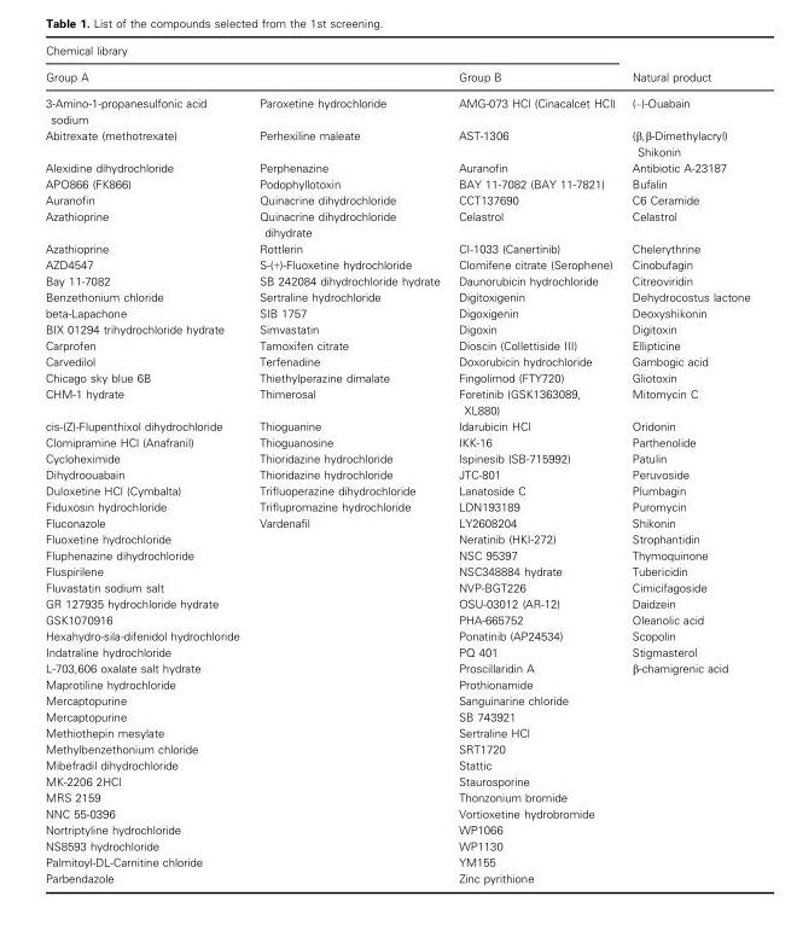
<table><thead><tr><td colspan="3">Chemical library</td><td rowspan="2">Natural product</td></tr><tr><td>Group A</td><td></td><td>Group B</td></tr></thead><tbody><tr><td>3-Amino-1-propanesulfonic acid sodium</td><td>Paroxetine hydrochloride</td><td>AMG-073 HCl (Cinacalcet HCl)</td><td>(–)-Ouabain</td></tr><tr><td>Abitrexate (methotrexate)</td><td>Perhexiline maleate</td><td>AST-1306</td><td>(β,β-Dimethylacryl) Shikonin</td></tr><tr><td>Alexidine dihydrochloride</td><td>Perphenazine</td><td>Auranofin</td><td>Antibiotic A-23187</td></tr><tr><td>APO866 (FK866)</td><td>Podophyllotoxin</td><td>BAY 11-7082 (BAY 11-7821)</td><td>Bufalin</td></tr><tr><td>Auranofin</td><td>Quinacrine dihydrochloride</td><td>CCT137690</td><td>C6 Ceramide</td></tr><tr><td>Azathioprine</td><td>Quinacrine dihydrochloride dihydrate</td><td>Celastrol</td><td>Celastrol</td></tr><tr><td>Azathioprine</td><td>Rottlerin</td><td>CI-1033 (Canertinib)</td><td>Chelerythrine</td></tr><tr><td>AZD4547</td><td>S-(+)-Fluoxetine hydrochloride</td><td>Clomifene citrate (Serophene)</td><td>Cinobufagin</td></tr><tr><td>Bay 11-7082</td><td>SB 242084 dihydrochloride hydrate</td><td>Daunorubicin hydrochloride</td><td>Citreoviridin</td></tr><tr><td>Benzethonium chloride</td><td>Sertraline hydrochloride</td><td>Digitoxigenin</td><td>Dehydrocostus lactone</td></tr><tr><td>beta-Lapachone</td><td>SIB 1757</td><td>Digoxigenin</td><td>Deoxyshikonin</td></tr><tr><td>BIX 01294 trihydrochloride hydrate</td><td>Simvastatin</td><td>Digoxin</td><td>Digitoxin</td></tr><tr><td>Carprofen</td><td>Tamoxifen citrate</td><td>Dioscin (Collettiside III)</td><td>Ellipticine</td></tr><tr><td>Carvedilol</td><td>Terfenadine</td><td>Doxorubicin hydrochloride</td><td>Gambogic acid</td></tr><tr><td>Chicago sky blue 6B</td><td>Thiethylperazine dimalate</td><td>Fingolimod (FTY720)</td><td>Gliotoxin</td></tr><tr><td>CHM-1 hydrate</td><td>Thimerosal</td><td>Foretinib (GSK1363089, XL880)</td><td>Mitomycin C</td></tr><tr><td>cis-(Z)-Flupenthixol dihydrochloride</td><td>Thioguanine</td><td>Idarubicin HCl</td><td>Oridonin</td></tr><tr><td>Clomipramine HCl (Anafranil)</td><td>Thioguanosine</td><td>IKK-16</td><td>Parthenolide</td></tr><tr><td>Cycloheximide</td><td>Thioridazine hydrochloride</td><td>Ispinesib (SB-715992)</td><td>Patulin</td></tr><tr><td>Dihydroouabain</td><td>Thioridazine hydrochloride</td><td>JTC-801</td><td>Peruvoside</td></tr><tr><td>Duloxetine HCl (Cymbalta)</td><td>Trifluoperazine dihydrochloride</td><td>Lanatoside C</td><td>Plumbagin</td></tr><tr><td>Fiduxosin hydrochloride</td><td>Triflupromazine hydrochloride</td><td>LDN193189</td><td>Puromycin</td></tr><tr><td>Fluconazole</td><td>Vardenafil</td><td>LY2608204</td><td>Shikonin</td></tr><tr><td>Fluoxetine hydrochloride</td><td></td><td>Neratinib (HKI-272)</td><td>Strophantidin</td></tr><tr><td>Fluphenazine dihydrochloride</td><td></td><td>NSC 95397</td><td>Thymoquinone</td></tr><tr><td>Fluspirilene</td><td></td><td>NSC348884 hydrate</td><td>Tubericidin</td></tr><tr><td>Fluvastatin sodium salt</td><td></td><td>NVP-BGT226</td><td>Cimicifagoside</td></tr><tr><td>GR 127935 hydrochloride hydrate</td><td></td><td>OSU-03012 (AR-12)</td><td>Daidzein</td></tr><tr><td>GSK1070916</td><td></td><td>PHA-665752</td><td>Oleanolic acid</td></tr><tr><td>Hexahydro-sila-difenidol hydrochloride</td><td></td><td>Ponatinib (AP24534)</td><td>Scopolin</td></tr><tr><td>Indatraline hydrochloride</td><td></td><td>PQ 401</td><td>Stigmasterol</td></tr><tr><td>L-703,606 oxalate salt hydrate</td><td></td><td>Proscillaridin A</td><td>β-chamigrenic acid</td></tr><tr><td>Maprotiline hydrochloride</td><td></td><td>Prothionamide</td><td></td></tr><tr><td>Mercaptopurine</td><td></td><td>Sanguinarine chloride</td><td></td></tr><tr><td>Mercaptopurine</td><td></td><td>SB 743921</td><td></td></tr><tr><td>Methiothepin mesylate</td><td></td><td>Sertraline HCl</td><td></td></tr><tr><td>Methylbenzethonium chloride</td><td></td><td>SRT1720</td><td></td></tr><tr><td>Mibefradil dihydrochloride</td><td></td><td>Stattic</td><td></td></tr><tr><td>MK-2206 2HCl</td><td></td><td>Staurosporine</td><td></td></tr><tr><td>MRS 2159</td><td></td><td>Thonzonium bromide</td><td></td></tr><tr><td>NNC 55-0396</td><td></td><td>Vortioxetine hydrobromide</td><td></td></tr><tr><td>Nortriptyline hydrochloride</td><td></td><td>WP1066</td><td></td></tr><tr><td>NS8593 hydrochloride</td><td></td><td>WP1130</td><td></td></tr><tr><td>Palmitoyl-DL-Carnitine chloride</td><td></td><td>YM155</td><td></td></tr><tr><td>Parbendazole</td><td></td><td>Zinc pyrithione</td><td></td></tr></tbody></table>